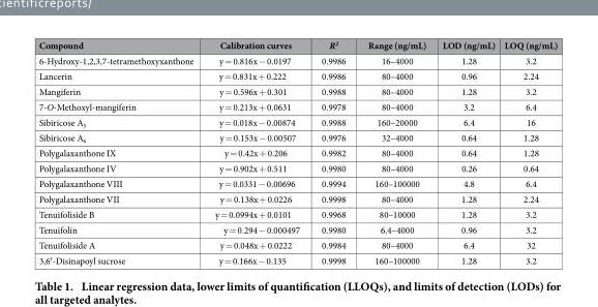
<table><thead><tr><td>Compound</td><td>Calibration curves</td><td>R<sup>2</sup></td><td>Range (ng/mL)</td><td>LOD (ng/mL)</td><td>LOQ (ng/mL)</td></tr></thead><tbody><tr><td>6-Hydroxy-1,2,3,7-tetramethoxyxanthone</td><td>y = 0.816x − 0.0197</td><td>0.9986</td><td>16–4000</td><td>1.28</td><td>3.2</td></tr><tr><td>Lancerin</td><td>y = 0.831x + 0.222</td><td>0.9986</td><td>80–4000</td><td>0.96</td><td>2.24</td></tr><tr><td>Mangiferin</td><td>y = 0.596x + 0.301</td><td>0.9988</td><td>80–4000</td><td>1.28</td><td>3.2</td></tr><tr><td>7-O-Methoxyl-mangiferin</td><td>y = 0.213x + 0.0631</td><td>0.9978</td><td>80–4000</td><td>3.2</td><td>6.4</td></tr><tr><td>Sibiricose A<sub>5</sub></td><td>y = 0.018x − 0.00874</td><td>0.9988</td><td>160–20000</td><td>6.4</td><td>16</td></tr><tr><td>Sibiricose A<sub>6</sub></td><td>y = 0.153x − 0.00507</td><td>0.9976</td><td>32–4000</td><td>0.64</td><td>1.28</td></tr><tr><td>Polygalaxanthone IX</td><td>y = 0.42x + 0.206</td><td>0.9982</td><td>80–4000</td><td>0.64</td><td>1.28</td></tr><tr><td>Polygalaxanthone IV</td><td>y = 0.902x + 0.511</td><td>0.9980</td><td>80–4000</td><td>0.26</td><td>0.64</td></tr><tr><td>Polygalaxanthone VIII</td><td>y = 0.0331 − 0.00696</td><td>0.9994</td><td>160–100000</td><td>4.8</td><td>6.4</td></tr><tr><td>Polygalaxanthone VII</td><td>y = 0.138x + 0.0226</td><td>0.9998</td><td>80–4000</td><td>1.28</td><td>2.24</td></tr><tr><td>Tenuifoliside B</td><td>y = 0.0994x + 0.0101</td><td>0.9968</td><td>80–10000</td><td>1.28</td><td>3.2</td></tr><tr><td>Tenuifolin</td><td>y = 0.294 − 0.000497</td><td>0.9980</td><td>6.4–4000</td><td>0.96</td><td>3.2</td></tr><tr><td>Tenuifoliside A</td><td>y = 0.048x + 0.0222</td><td>0.9984</td><td>80–4000</td><td>6.4</td><td>32</td></tr><tr><td>3,6′-Disinapoyl sucrose</td><td>y = 0.166x − 0.135</td><td>0.9998</td><td>160–100000</td><td>1.28</td><td>3.2</td></tr></tbody></table>